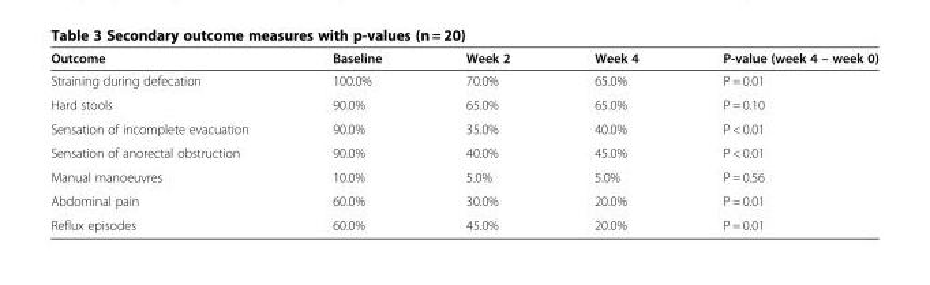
<table><thead><tr><td>Outcome</td><td>Baseline</td><td>Week 2</td><td>Week 4</td><td>P-value (week 4 – week 0)</td></tr></thead><tbody><tr><td>Straining during defecation</td><td>100.0%</td><td>70.0%</td><td>65.0%</td><td>P = 0.01</td></tr><tr><td>Hard stools</td><td>90.0%</td><td>65.0%</td><td>65.0%</td><td>P = 0.10</td></tr><tr><td>Sensation of incomplete evacuation</td><td>90.0%</td><td>35.0%</td><td>40.0%</td><td>P &lt; 0.01</td></tr><tr><td>Sensation of anorectal obstruction</td><td>90.0%</td><td>40.0%</td><td>45.0%</td><td>P &lt; 0.01</td></tr><tr><td>Manual manoeuvres</td><td>10.0%</td><td>5.0%</td><td>5.0%</td><td>P = 0.56</td></tr><tr><td>Abdominal pain</td><td>60.0%</td><td>30.0%</td><td>20.0%</td><td>P = 0.01</td></tr><tr><td>Reflux episodes</td><td>60.0%</td><td>45.0%</td><td>20.0%</td><td>P = 0.01</td></tr></tbody></table>